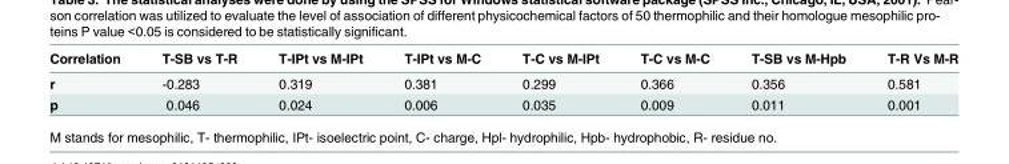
<table><thead><tr><td>Correlation</td><td>T-SB vs T-R</td><td>T-IPt vs M-IPt</td><td>T-IPt vs M-C</td><td>T-C vs M-IPt</td><td>T-C vs M-C</td><td>T-SB vs M-Hpb</td><td>T-R Vs M-R</td></tr></thead><tbody><tr><td>r</td><td>-0.283</td><td>0.319</td><td>0.381</td><td>0.299</td><td>0.366</td><td>0.356</td><td>0.581</td></tr><tr><td>p</td><td>0.046</td><td>0.024</td><td>0.006</td><td>0.035</td><td>0.009</td><td>0.011</td><td>0.001</td></tr></tbody></table>